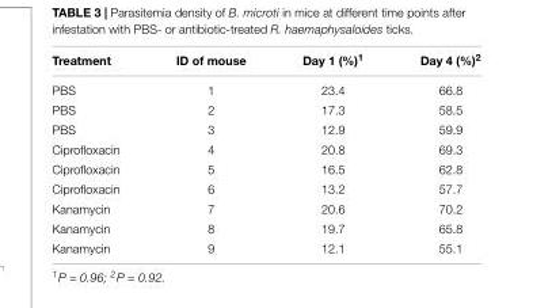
<table><thead><tr><td>Treatment</td><td>ID of mouse</td><td>Day 1 (%)<sup>1</sup></td><td>Day 4 (%)<sup>2</sup></td></tr></thead><tbody><tr><td>PBS</td><td>1</td><td>23.4</td><td>66.8</td></tr><tr><td>PBS</td><td>2</td><td>17.3</td><td>58.5</td></tr><tr><td>PBS</td><td>3</td><td>12.9</td><td>59.9</td></tr><tr><td>Ciprofloxacin</td><td>4</td><td>20.8</td><td>69.3</td></tr><tr><td>Ciprofloxacin</td><td>5</td><td>16.5</td><td>62.8</td></tr><tr><td>Ciprofloxacin</td><td>6</td><td>13.2</td><td>57.7</td></tr><tr><td>Kanamycin</td><td>7</td><td>20.6</td><td>70.2</td></tr><tr><td>Kanamycin</td><td>8</td><td>19.7</td><td>65.8</td></tr><tr><td>Kanamycin</td><td>9</td><td>12.1</td><td>55.1</td></tr></tbody></table>